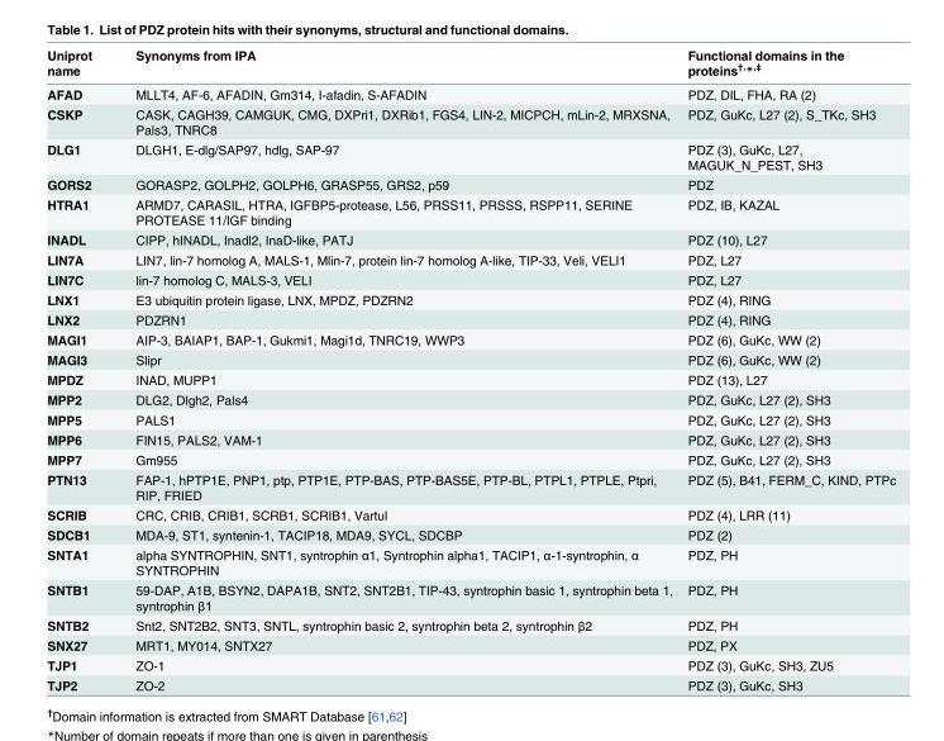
<table><thead><tr><td>Uniprot name</td><td>Synonyms from IPA</td><td>Functional domains in the proteins<sup>†,</sup>*<sup>,‡</sup></td></tr></thead><tbody><tr><td>AFAD</td><td>MLLT4, AF-6, AFADIN, Gm314, I-afadin, S-AFADIN</td><td>PDZ, DIL, FHA, RA (2)</td></tr><tr><td>CSKP</td><td>CASK, CAGH39, CAMGUK, CMG, DXPri1, DXRib1, FGS4, LIN-2, MICPCH, mLin-2, MRXSNA, Pals3, TNRC8</td><td>PDZ, GuKc, L27 (2), S_TKc, SH3</td></tr><tr><td>DLG1</td><td>DLGH1, E-dlg/SAP97, hdlg, SAP-97</td><td>PDZ (3), GuKc, L27, MAGUK_N_PEST, SH3</td></tr><tr><td>GORS2</td><td>GORASP2, GOLPH2, GOLPH6, GRASP55, GRS2, p59</td><td>PDZ</td></tr><tr><td>HTRA1</td><td>ARMD7, CARASIL, HTRA, IGFBP5-protease, L56, PRSS11, PRSSS, RSPP11, SERINE PROTEASE 11/IGF binding</td><td>PDZ, IB, KAZAL</td></tr><tr><td>INADL</td><td>CIPP, hINADL, Inadl2, InaD-like, PATJ</td><td>PDZ (10), L27</td></tr><tr><td>LIN7A</td><td>LIN7, lin-7 homolog A, MALS-1, Mlin-7, protein lin-7 homolog A-like, TIP-33, Veli, VELI1</td><td>PDZ, L27</td></tr><tr><td>LIN7C</td><td>lin-7 homolog C, MALS-3, VELI</td><td>PDZ, L27</td></tr><tr><td>LNX1</td><td>E3 ubiquitin protein ligase, LNX, MPDZ, PDZRN2</td><td>PDZ (4), RING</td></tr><tr><td>LNX2</td><td>PDZRN1</td><td>PDZ (4), RING</td></tr><tr><td>MAGI1</td><td>AIP-3, BAIAP1, BAP-1, Gukmi1, Magi1d, TNRC19, WWP3</td><td>PDZ (6), GuKc, WW (2)</td></tr><tr><td>MAGI3</td><td>Slipr</td><td>PDZ (6), GuKc, WW (2)</td></tr><tr><td>MPDZ</td><td>INAD, MUPP1</td><td>PDZ (13), L27</td></tr><tr><td>MPP2</td><td>DLG2, Dlgh2, Pals4</td><td>PDZ, GuKc, L27 (2), SH3</td></tr><tr><td>MPP5</td><td>PALS1</td><td>PDZ, GuKc, L27 (2), SH3</td></tr><tr><td>MPP6</td><td>FIN15, PALS2, VAM-1</td><td>PDZ, GuKc, L27 (2), SH3</td></tr><tr><td>MPP7</td><td>Gm955</td><td>PDZ, GuKc, L27 (2), SH3</td></tr><tr><td>PTN13</td><td>FAP-1, hPTP1E, PNP1, ptp, PTP1E, PTP-BAS, PTP-BAS5E, PTP-BL, PTPL1, PTPLE, Ptpri, RIP, FRIED</td><td>PDZ (5), B41, FERM_C, KIND, PTPc</td></tr><tr><td>SCRIB</td><td>CRC, CRIB, CRIB1, SCRB1, SCRIB1, Vartul</td><td>PDZ (4), LRR (11)</td></tr><tr><td>SDCB1</td><td>MDA-9, ST1, syntenin-1, TACIP18, MDA9, SYCL, SDCBP</td><td>PDZ (2)</td></tr><tr><td>SNTA1</td><td>alpha SYNTROPHIN, SNT1, syntrophin α1, Syntrophin alpha1, TACIP1, α-1-syntrophin, α SYNTROPHIN</td><td>PDZ, PH</td></tr><tr><td>SNTB1</td><td>59-DAP, A1B, BSYN2, DAPA1B, SNT2, SNT2B1, TIP-43, syntrophin basic 1, syntrophin beta 1, syntrophin β1</td><td>PDZ, PH</td></tr><tr><td>SNTB2</td><td>Snt2, SNT2B2, SNT3, SNTL, syntrophin basic 2, syntrophin beta 2, syntrophin β2</td><td>PDZ, PH</td></tr><tr><td>SNX27</td><td>MRT1, MY014, SNTX27</td><td>PDZ, PX</td></tr><tr><td>TJP1</td><td>ZO-1</td><td>PDZ (3), GuKc, SH3, ZU5</td></tr><tr><td>TJP2</td><td>ZO-2</td><td>PDZ (3), GuKc, SH3</td></tr></tbody></table>